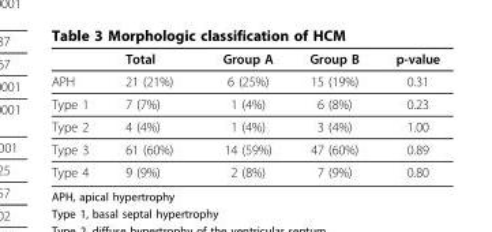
<table><thead><tr><td></td><td>Total</td><td>Group A</td><td>Group B</td><td>p-value</td></tr></thead><tbody><tr><td>APH</td><td>21 (21%)</td><td>6 (25%)</td><td>15 (19%)</td><td>0.31</td></tr><tr><td>Type 1</td><td>7 (7%)</td><td>1 (4%)</td><td>6 (8%)</td><td>0.23</td></tr><tr><td>Type 2</td><td>4 (4%)</td><td>1 (4%)</td><td>3 (4%)</td><td>1.00</td></tr><tr><td>Type 3</td><td>61 (60%)</td><td>14 (59%)</td><td>47 (60%)</td><td>0.89</td></tr><tr><td>Type 4</td><td>9 (9%)</td><td>2 (8%)</td><td>7 (9%)</td><td>0.80</td></tr></tbody></table>